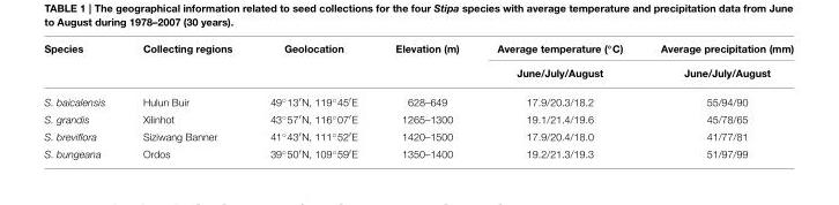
<table><thead><tr><td rowspan="2">Species</td><td rowspan="2">Collecting regions</td><td rowspan="2">Geolocation</td><td rowspan="2">Elevation (m)</td><td rowspan="2">Average temperature (◦C) June/July/August</td><td rowspan="2">Average precipitation (mm) June/July/August</td></tr><tr></tr></thead><tbody><tr><td>S. baicalensis</td><td>Hulun Buir</td><td>49◦13′N, 119◦45′E</td><td>628–649</td><td>17.9/20.3/18.2</td><td>55/94/90</td></tr><tr><td>S. grandis</td><td>Xilinhot</td><td>43◦57′N, 116◦07′E</td><td>1265–1300</td><td>19.1/21.4/19.6</td><td>45/78/65</td></tr><tr><td>S. breviflora</td><td>Siziwang Banner</td><td>41◦43′N, 111◦52′E</td><td>1420–1500</td><td>17.9/20.4/18.0</td><td>41/77/81</td></tr><tr><td>S. bungeana</td><td>Ordos</td><td>39◦50′N, 109◦59′E</td><td>1350–1400</td><td>19.2/21.3/19.3</td><td>51/97/99</td></tr></tbody></table>